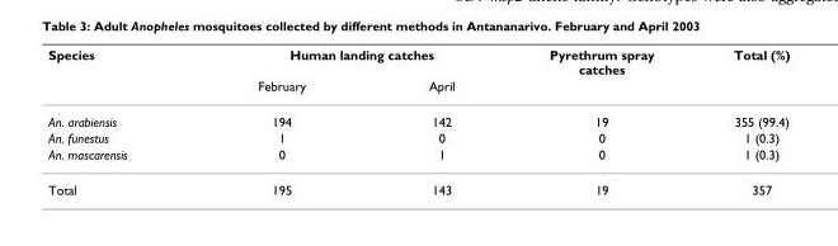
<table><thead><tr><td rowspan="2">Species</td><td colspan="2">Human landing catches</td><td rowspan="2">Pyrethrum spray catches</td><td rowspan="2">Total (%)</td></tr><tr><td>February</td><td>April</td></tr></thead><tbody><tr><td>An. arabiensis</td><td>194</td><td>142</td><td>19</td><td>355 (99.4)</td></tr><tr><td>An. funestus</td><td>1</td><td>0</td><td>0</td><td>1 (0.3)</td></tr><tr><td>An. mascarensis</td><td>0</td><td>1</td><td>0</td><td>1 (0.3)</td></tr><tr><td>Total</td><td>195</td><td>143</td><td>19</td><td>357</td></tr></tbody></table>